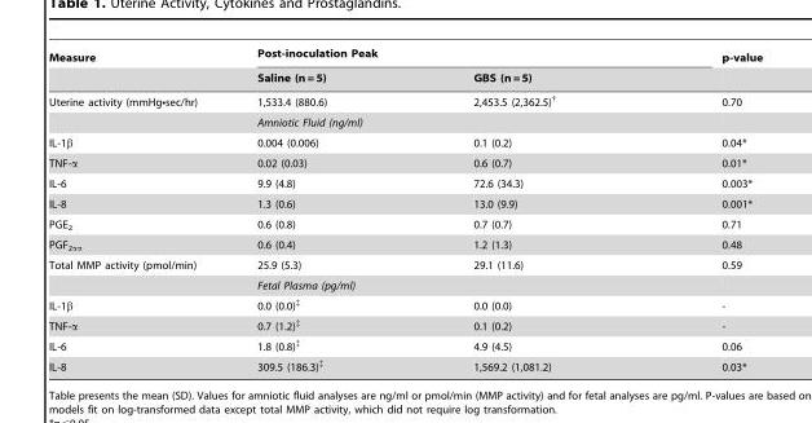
<table><thead><tr><td rowspan="2">Measure</td><td colspan="2">Post-inoculation Peak</td><td rowspan="2">p-value</td></tr><tr><td>Saline (n = 5)</td><td>GBS (n = 5)</td></tr></thead><tbody><tr><td rowspan="2">Uterine activity (mmHg•sec/hr)</td><td>1,533.4 (880.6)</td><td>2,453.5 (2,362.5)†</td><td>0.70</td></tr><tr><td colspan="2">Amniotic Fluid (ng/ml)</td><td></td></tr><tr><td>IL-1β</td><td>0.004 (0.006)</td><td>0.1 (0.2)</td><td>0.04*</td></tr><tr><td>TNF-α</td><td>0.02 (0.03)</td><td>0.6 (0.7)</td><td>0.01*</td></tr><tr><td>IL-6</td><td>9.9 (4.8)</td><td>72.6 (34.3)</td><td>0.003*</td></tr><tr><td>IL-8</td><td>1.3 (0.6)</td><td>13.0 (9.9)</td><td>0.001*</td></tr><tr><td>PGE<sub>2</sub></td><td>0.6 (0.8)</td><td>0.7 (0.7)</td><td>0.71</td></tr><tr><td>PGF<sub>2αα</sub></td><td>0.6 (0.4)</td><td>1.2 (1.3)</td><td>0.48</td></tr><tr><td rowspan="2">Total MMP activity (pmol/min)</td><td>25.9 (5.3)</td><td>29.1 (11.6)</td><td>0.59</td></tr><tr><td colspan="2">Fetal Plasma (pg/ml)</td><td></td></tr><tr><td>IL-1β</td><td>0.0 (0.0)‡</td><td>0.0 (0.0)</td><td>-</td></tr><tr><td>TNF-α</td><td>0.7 (1.2)‡</td><td>0.1 (0.2)</td><td>-</td></tr><tr><td>IL-6</td><td>1.8 (0.8)‡</td><td>4.9 (4.5)</td><td>0.06</td></tr><tr><td>IL-8</td><td>309.5 (186.3)‡</td><td>1,569.2 (1,081.2)</td><td>0.03*</td></tr></tbody></table>